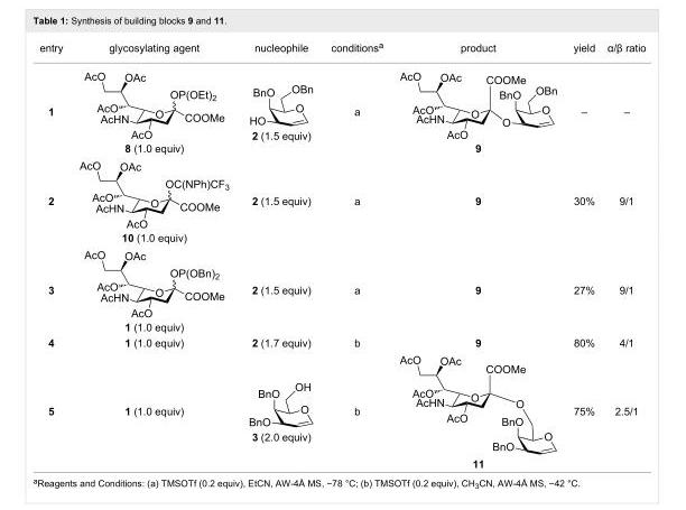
<table><tbody><tr><td>entry</td><td>glycosylating agent</td><td>nucleophile</td><td>conditions<sup>a</sup></td><td>product</td><td>yield</td><td>α/β ratio</td></tr><tr><td>1</td><td>8 (1.0 equiv)</td><td>2 (1.5 equiv)</td><td>a</td><td>9</td><td>–</td><td>–</td></tr><tr><td>2</td><td>10 (1.0 equiv)</td><td>2 (1.5 equiv)</td><td>a</td><td>9</td><td>30%</td><td>9/1</td></tr><tr><td>3</td><td>1 (1.0 equiv)</td><td>2 (1.5 equiv)</td><td>a</td><td>9</td><td>27%</td><td>9/1</td></tr><tr><td>4</td><td>1 (1.0 equiv)</td><td>2 (1.7 equiv)</td><td>b</td><td>9</td><td>80%</td><td>4/1</td></tr><tr><td>5</td><td>1 (1.0 equiv)</td><td>3 (2.0 equiv)</td><td>b</td><td>11</td><td>75%</td><td>2.5/1</td></tr></tbody></table>